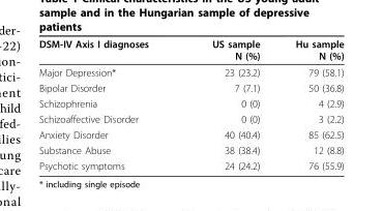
<table><thead><tr><td>DSM-IV Axis I diagnoses</td><td>US sample N (%)</td><td>Hu sample N (%)</td></tr></thead><tbody><tr><td>Major Depression*</td><td>23 (23.2)</td><td>79 (58.1)</td></tr><tr><td>Bipolar Disorder</td><td>7 (7.1)</td><td>50 (36.8)</td></tr><tr><td>Schizophrenia</td><td>0 (0)</td><td>4 (2.9)</td></tr><tr><td>Schizoaffective Disorder</td><td>0 (0)</td><td>3 (2.2)</td></tr><tr><td>Anxiety Disorder</td><td>40 (40.4)</td><td>85 (62.5)</td></tr><tr><td>Substance Abuse</td><td>38 (38.4)</td><td>12 (8.8)</td></tr><tr><td>Psychotic symptoms</td><td>24 (24.2)</td><td>76 (55.9)</td></tr></tbody></table>